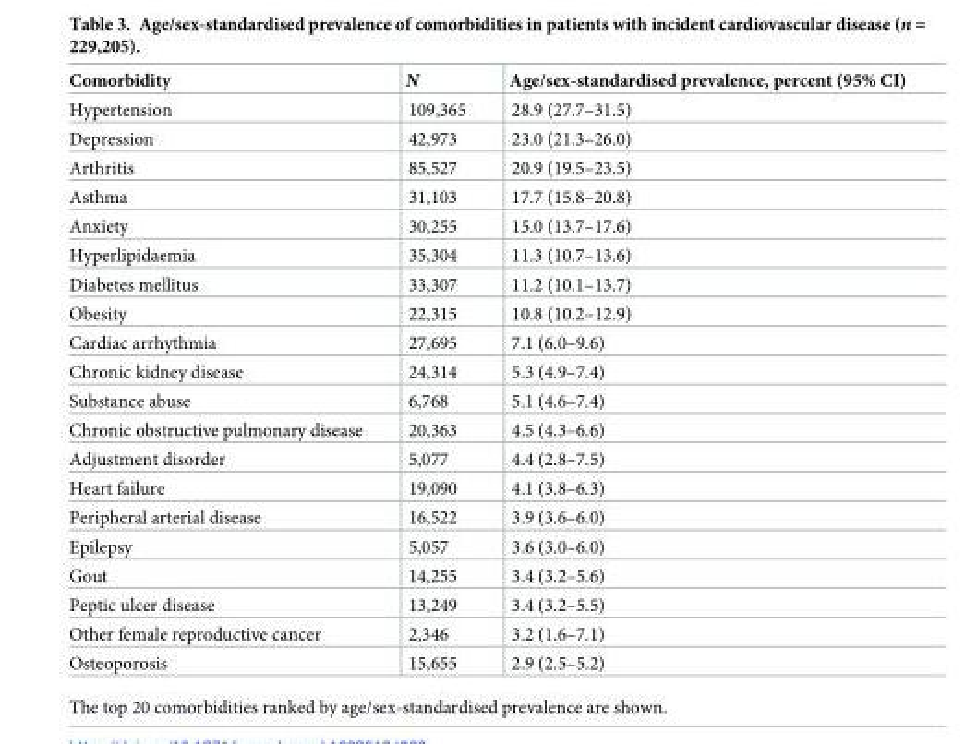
<table><thead><tr><td>Comorbidity</td><td>N</td><td>Age/sex-standardised prevalence, percent (95% CI)</td></tr></thead><tbody><tr><td>Hypertension</td><td>109,365</td><td>28.9 (27.7–31.5)</td></tr><tr><td>Depression</td><td>42,973</td><td>23.0 (21.3–26.0)</td></tr><tr><td>Arthritis</td><td>85,527</td><td>20.9 (19.5–23.5)</td></tr><tr><td>Asthma</td><td>31,103</td><td>17.7 (15.8–20.8)</td></tr><tr><td>Anxiety</td><td>30,255</td><td>15.0 (13.7–17.6)</td></tr><tr><td>Hyperlipidaemia</td><td>35,304</td><td>11.3 (10.7–13.6)</td></tr><tr><td>Diabetes mellitus</td><td>33,307</td><td>11.2 (10.1–13.7)</td></tr><tr><td>Obesity</td><td>22,315</td><td>10.8 (10.2–12.9)</td></tr><tr><td>Cardiac arrhythmia</td><td>27,695</td><td>7.1 (6.0–9.6)</td></tr><tr><td>Chronic kidney disease</td><td>24,314</td><td>5.3 (4.9–7.4)</td></tr><tr><td>Substance abuse</td><td>6,768</td><td>5.1 (4.6–7.4)</td></tr><tr><td>Chronic obstructive pulmonary disease</td><td>20,363</td><td>4.5 (4.3–6.6)</td></tr><tr><td>Adjustment disorder</td><td>5,077</td><td>4.4 (2.8–7.5)</td></tr><tr><td>Heart failure</td><td>19,090</td><td>4.1 (3.8–6.3)</td></tr><tr><td>Peripheral arterial disease</td><td>16,522</td><td>3.9 (3.6–6.0)</td></tr><tr><td>Epilepsy</td><td>5,057</td><td>3.6 (3.0–6.0)</td></tr><tr><td>Gout</td><td>14,255</td><td>3.4 (3.2–5.6)</td></tr><tr><td>Peptic ulcer disease</td><td>13,249</td><td>3.4 (3.2–5.5)</td></tr><tr><td>Other female reproductive cancer</td><td>2,346</td><td>3.2 (1.6–7.1)</td></tr><tr><td>Osteoporosis</td><td>15,655</td><td>2.9 (2.5–5.2)</td></tr></tbody></table>